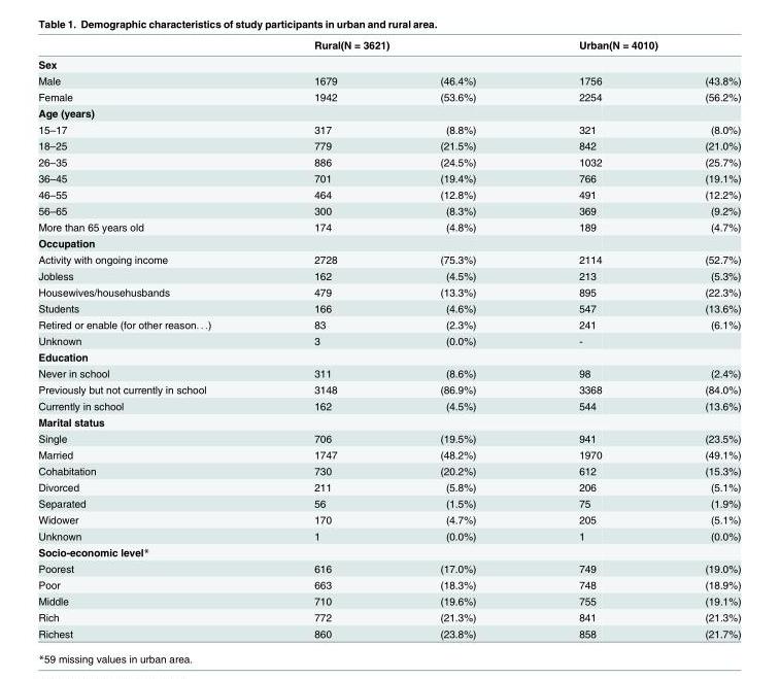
<table><thead><tr><td rowspan="2">Sex</td><td colspan="2">Rural(N = 3621)</td><td colspan="2">Urban(N = 4010)</td></tr><tr><td></td><td></td><td></td><td></td></tr></thead><tbody><tr><td>Male</td><td>1679</td><td>(46.4%)</td><td>1756</td><td>(43.8%)</td></tr><tr><td>Female</td><td>1942</td><td>(53.6%)</td><td>2254</td><td>(56.2%)</td></tr><tr><td colspan="5">Age (years)</td></tr><tr><td>15–17</td><td>317</td><td>(8.8%)</td><td>321</td><td>(8.0%)</td></tr><tr><td>18–25</td><td>779</td><td>(21.5%)</td><td>842</td><td>(21.0%)</td></tr><tr><td>26–35</td><td>886</td><td>(24.5%)</td><td>1032</td><td>(25.7%)</td></tr><tr><td>36–45</td><td>701</td><td>(19.4%)</td><td>766</td><td>(19.1%)</td></tr><tr><td>46–55</td><td>464</td><td>(12.8%)</td><td>491</td><td>(12.2%)</td></tr><tr><td>56–65</td><td>300</td><td>(8.3%)</td><td>369</td><td>(9.2%)</td></tr><tr><td>More than 65 years old</td><td>174</td><td>(4.8%)</td><td>189</td><td>(4.7%)</td></tr><tr><td colspan="5">Occupation</td></tr><tr><td>Activity with ongoing income</td><td>2728</td><td>(75.3%)</td><td>2114</td><td>(52.7%)</td></tr><tr><td>Jobless</td><td>162</td><td>(4.5%)</td><td>213</td><td>(5.3%)</td></tr><tr><td>Housewives/househusbands</td><td>479</td><td>(13.3%)</td><td>895</td><td>(22.3%)</td></tr><tr><td>Students</td><td>166</td><td>(4.6%)</td><td>547</td><td>(13.6%)</td></tr><tr><td>Retired or enable (for other reason. . .)</td><td>83</td><td>(2.3%)</td><td>241</td><td>(6.1%)</td></tr><tr><td>Unknown</td><td>3</td><td>(0.0%)</td><td>-</td><td></td></tr><tr><td colspan="5">Education</td></tr><tr><td>Never in school</td><td>311</td><td>(8.6%)</td><td>98</td><td>(2.4%)</td></tr><tr><td>Previously but not currently in school</td><td>3148</td><td>(86.9%)</td><td>3368</td><td>(84.0%)</td></tr><tr><td>Currently in school</td><td>162</td><td>(4.5%)</td><td>544</td><td>(13.6%)</td></tr><tr><td colspan="5">Marital status</td></tr><tr><td>Single</td><td>706</td><td>(19.5%)</td><td>941</td><td>(23.5%)</td></tr><tr><td>Married</td><td>1747</td><td>(48.2%)</td><td>1970</td><td>(49.1%)</td></tr><tr><td>Cohabitation</td><td>730</td><td>(20.2%)</td><td>612</td><td>(15.3%)</td></tr><tr><td>Divorced</td><td>211</td><td>(5.8%)</td><td>206</td><td>(5.1%)</td></tr><tr><td>Separated</td><td>56</td><td>(1.5%)</td><td>75</td><td>(1.9%)</td></tr><tr><td>Widower</td><td>170</td><td>(4.7%)</td><td>205</td><td>(5.1%)</td></tr><tr><td>Unknown</td><td>1</td><td>(0.0%)</td><td>1</td><td>(0.0%)</td></tr><tr><td colspan="5">Socio-economic level*</td></tr><tr><td>Poorest</td><td>616</td><td>(17.0%)</td><td>749</td><td>(19.0%)</td></tr><tr><td>Poor</td><td>663</td><td>(18.3%)</td><td>748</td><td>(18.9%)</td></tr><tr><td>Middle</td><td>710</td><td>(19.6%)</td><td>755</td><td>(19.1%)</td></tr><tr><td>Rich</td><td>772</td><td>(21.3%)</td><td>841</td><td>(21.3%)</td></tr><tr><td>Richest</td><td>860</td><td>(23.8%)</td><td>858</td><td>(21.7%)</td></tr></tbody></table>